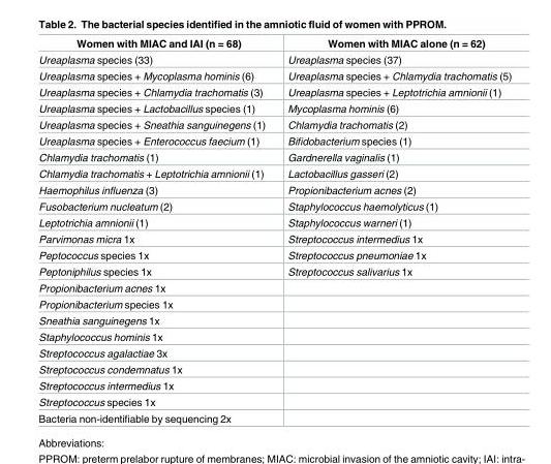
<table><thead><tr><td>Women with MIAC and IAI (n = 68)</td><td>Women with MIAC alone (n = 62)</td></tr></thead><tbody><tr><td>Ureaplasma species (33)</td><td>Ureaplasma species (37)</td></tr><tr><td>Ureaplasma species + Mycoplasma hominis (6)</td><td>Ureaplasma species + Chlamydia trachomatis (5)</td></tr><tr><td>Ureaplasma species + Chlamydia trachomatis (3)</td><td>Ureaplasma species + Leptotrichia amnionii (1)</td></tr><tr><td>Ureaplasma species + Lactobacillus species (1)</td><td>Mycoplasma hominis (6)</td></tr><tr><td>Ureaplasma species + Sneathia sanguinegens (1)</td><td>Chlamydia trachomatis (2)</td></tr><tr><td>Ureaplasma species + Enterococcus faecium (1)</td><td>Bifidobacterium species (1)</td></tr><tr><td>Chlamydia trachomatis (1)</td><td>Gardnerella vaginalis (1)</td></tr><tr><td>Chlamydia trachomatis + Leptotrichia amnionii (1)</td><td>Lactobacillus gasseri (2)</td></tr><tr><td>Haemophilus influenza (3)</td><td>Propionibacterium acnes (2)</td></tr><tr><td>Fusobacterium nucleatum (2)</td><td>Staphylococcus haemolyticus (1)</td></tr><tr><td>Leptotrichia amnionii (1)</td><td>Staphylococcus warneri (1)</td></tr><tr><td>Parvimonas micra 1x</td><td>Streptococcus intermedius 1x</td></tr><tr><td>Peptococcus species 1x</td><td>Streptococcus pneumoniae 1x</td></tr><tr><td>Peptoniphilus species 1x</td><td>Streptococcus salivarius 1x</td></tr><tr><td colspan="2">Propionibacterium acnes 1x</td></tr><tr><td colspan="2">Propionibacterium species 1x</td></tr><tr><td colspan="2">Sneathia sanguinegens 1x</td></tr><tr><td colspan="2">Staphylococcus hominis 1x</td></tr><tr><td colspan="2">Streptococcus agalactiae 3x</td></tr><tr><td colspan="2">Streptococcus condemnatus 1x</td></tr><tr><td colspan="2">Streptococcus intermedius 1x</td></tr><tr><td colspan="2">Streptococcus species 1x</td></tr><tr><td>Bacteria non-identifiable by sequencing 2x</td><td></td></tr></tbody></table>